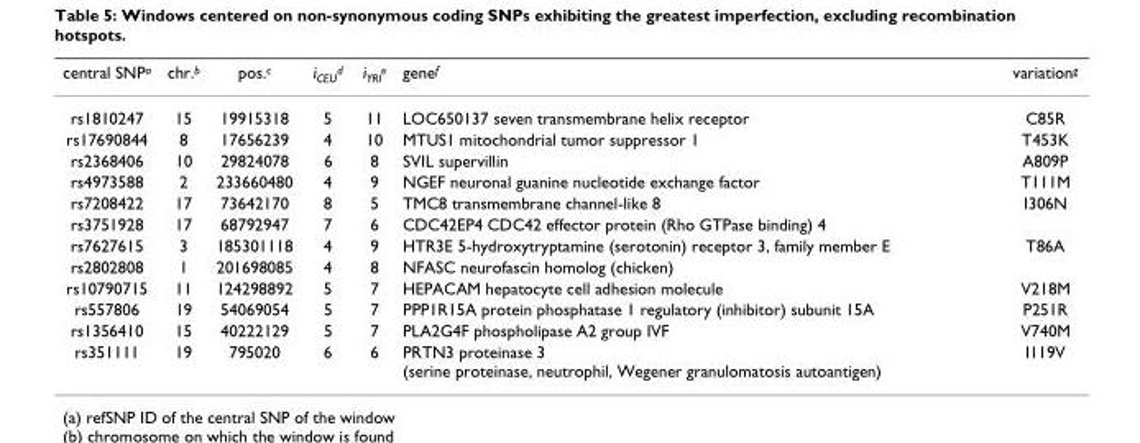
<table><thead><tr><td>central SNP<sup>a</sup></td><td>chr.<sup>b</sup></td><td>pos.<sup>c</sup></td><td>i<sub>CEU</sub><sup>d</sup></td><td>i<sub>YRI</sub><sup>e</sup></td><td>gene<sup>f</sup></td><td>variation<sup>g</sup></td></tr></thead><tbody><tr><td>rs1810247</td><td>15</td><td>19915318</td><td>5</td><td>11</td><td>LOC650137 seven transmembrane helix receptor</td><td>C85R</td></tr><tr><td>rs17690844</td><td>8</td><td>17656239</td><td>4</td><td>10</td><td>MTUS1 mitochondrial tumor suppressor 1</td><td>T453K</td></tr><tr><td>rs2368406</td><td>10</td><td>29824078</td><td>6</td><td>8</td><td>SVIL supervillin</td><td>A809P</td></tr><tr><td>rs4973588</td><td>2</td><td>233660480</td><td>4</td><td>9</td><td>NGEF neuronal guanine nucleotide exchange factor</td><td>T111M</td></tr><tr><td>rs7208422</td><td>17</td><td>73642170</td><td>8</td><td>5</td><td>TMC8 transmembrane channel-like 8</td><td>I306N</td></tr><tr><td>rs3751928</td><td>17</td><td>68792947</td><td>7</td><td>6</td><td>CDC42EP4 CDC42 effector protein (Rho GTPase binding) 4</td><td></td></tr><tr><td>rs7627615</td><td>3</td><td>185301118</td><td>4</td><td>9</td><td>HTR3E 5-hydroxytryptamine (serotonin) receptor 3, family member E</td><td>T86A</td></tr><tr><td>rs2802808</td><td>1</td><td>201698085</td><td>4</td><td>8</td><td>NFASC neurofascin homolog (chicken)</td><td></td></tr><tr><td>rs10790715</td><td>11</td><td>124298892</td><td>5</td><td>7</td><td>HEPACAM hepatocyte cell adhesion molecule</td><td>V218M</td></tr><tr><td>rs557806</td><td>19</td><td>54069054</td><td>5</td><td>7</td><td>PPP1R15A protein phosphatase 1 regulatory (inhibitor) subunit 15A</td><td>P251R</td></tr><tr><td>rs1356410</td><td>15</td><td>40222129</td><td>5</td><td>7</td><td>PLA2G4F phospholipase A2 group IVF</td><td>V740M</td></tr><tr><td>rs351111</td><td>19</td><td>795020</td><td>6</td><td>6</td><td>PRTN3 proteinase 3 (serine proteinase, neutrophil, Wegener granulomatosis autoantigen)</td><td>I119V</td></tr></tbody></table>